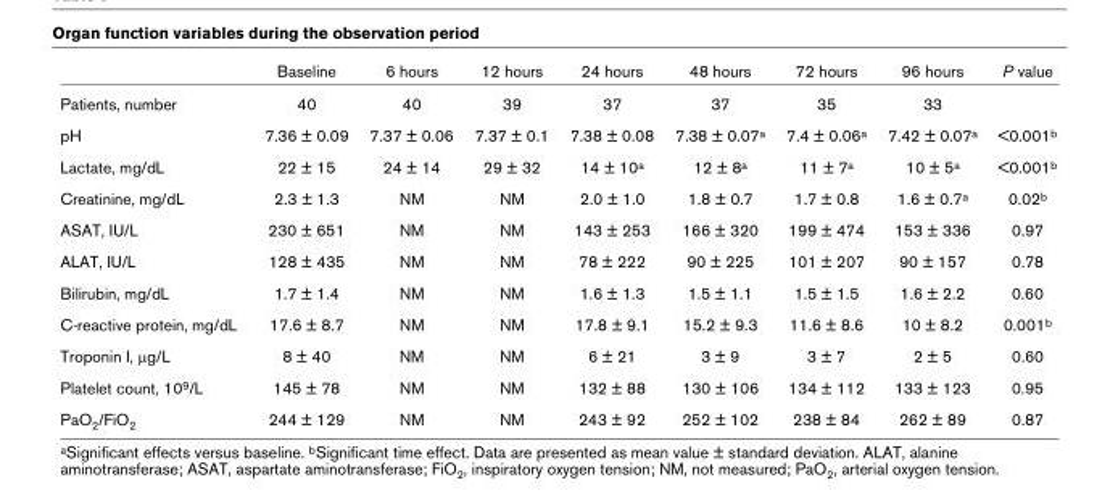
<table><thead><tr><td></td><td>Baseline</td><td>6 hours</td><td>12 hours</td><td>24 hours</td><td>48 hours</td><td>72 hours</td><td>96 hours</td><td>P value</td></tr></thead><tbody><tr><td>Patients, number</td><td>40</td><td>40</td><td>39</td><td>37</td><td>37</td><td>35</td><td>33</td><td></td></tr><tr><td>pH</td><td>7.36 ± 0.09</td><td>7.37 ± 0.06</td><td>7.37 ± 0.1</td><td>7.38 ± 0.08</td><td>7.38 ± 0.07<sup>a</sup></td><td>7.4 ± 0.06<sup>a</sup></td><td>7.42 ± 0.07<sup>a</sup></td><td>&lt;0.001<sup>b</sup></td></tr><tr><td>Lactate, mg/dL</td><td>22 ± 15</td><td>24 ± 14</td><td>29 ± 32</td><td>14 ± 10<sup>a</sup></td><td>12 ± 8<sup>a</sup></td><td>11 ± 7<sup>a</sup></td><td>10 ± 5<sup>a</sup></td><td>&lt;0.001<sup>b</sup></td></tr><tr><td>Creatinine, mg/dL</td><td>2.3 ± 1.3</td><td>NM</td><td>NM</td><td>2.0 ± 1.0</td><td>1.8 ± 0.7</td><td>1.7 ± 0.8</td><td>1.6 ± 0.7<sup>a</sup></td><td>0.02<sup>b</sup></td></tr><tr><td>ASAT, IU/L</td><td>230 ± 651</td><td>NM</td><td>NM</td><td>143 ± 253</td><td>166 ± 320</td><td>199 ± 474</td><td>153 ± 336</td><td>0.97</td></tr><tr><td>ALAT, IU/L</td><td>128 ± 435</td><td>NM</td><td>NM</td><td>78 ± 222</td><td>90 ± 225</td><td>101 ± 207</td><td>90 ± 157</td><td>0.78</td></tr><tr><td>Bilirubin, mg/dL</td><td>1.7 ± 1.4</td><td>NM</td><td>NM</td><td>1.6 ± 1.3</td><td>1.5 ± 1.1</td><td>1.5 ± 1.5</td><td>1.6 ± 2.2</td><td>0.60</td></tr><tr><td>C-reactive protein, mg/dL</td><td>17.6 ± 8.7</td><td>NM</td><td>NM</td><td>17.8 ± 9.1</td><td>15.2 ± 9.3</td><td>11.6 ± 8.6</td><td>10 ± 8.2</td><td>0.001<sup>b</sup></td></tr><tr><td>Troponin I, μg/L</td><td>8 ± 40</td><td>NM</td><td>NM</td><td>6 ± 21</td><td>3 ± 9</td><td>3 ± 7</td><td>2 ± 5</td><td>0.60</td></tr><tr><td>Platelet count, 10<sup>9</sup>/L</td><td>145 ± 78</td><td>NM</td><td>NM</td><td>132 ± 88</td><td>130 ± 106</td><td>134 ± 112</td><td>133 ± 123</td><td>0.95</td></tr><tr><td>PaO<sub>2</sub>/FiO<sub>2</sub></td><td>244 ± 129</td><td>NM</td><td>NM</td><td>243 ± 92</td><td>252 ± 102</td><td>238 ± 84</td><td>262 ± 89</td><td>0.87</td></tr></tbody></table>